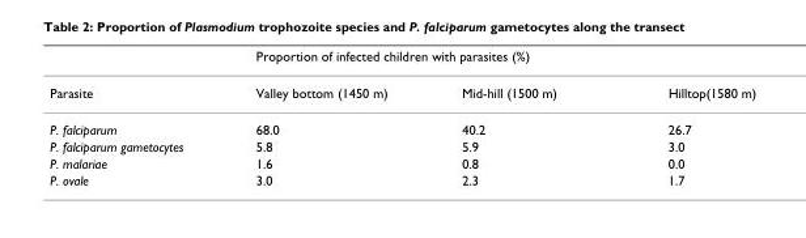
<table><thead><tr><td rowspan="2">Parasite</td><td colspan="3">Proportion of infected children with parasites (%)</td></tr><tr><td>Valley bottom (1450 m)</td><td>Mid-hill (1500 m)</td><td>Hilltop(1580 m)</td></tr></thead><tbody><tr><td>P. falciparum</td><td>68.0</td><td>40.2</td><td>26.7</td></tr><tr><td>P. falciparum gametocytes</td><td>5.8</td><td>5.9</td><td>3.0</td></tr><tr><td>P. malariae</td><td>1.6</td><td>0.8</td><td>0.0</td></tr><tr><td>P. ovale</td><td>3.0</td><td>2.3</td><td>1.7</td></tr></tbody></table>